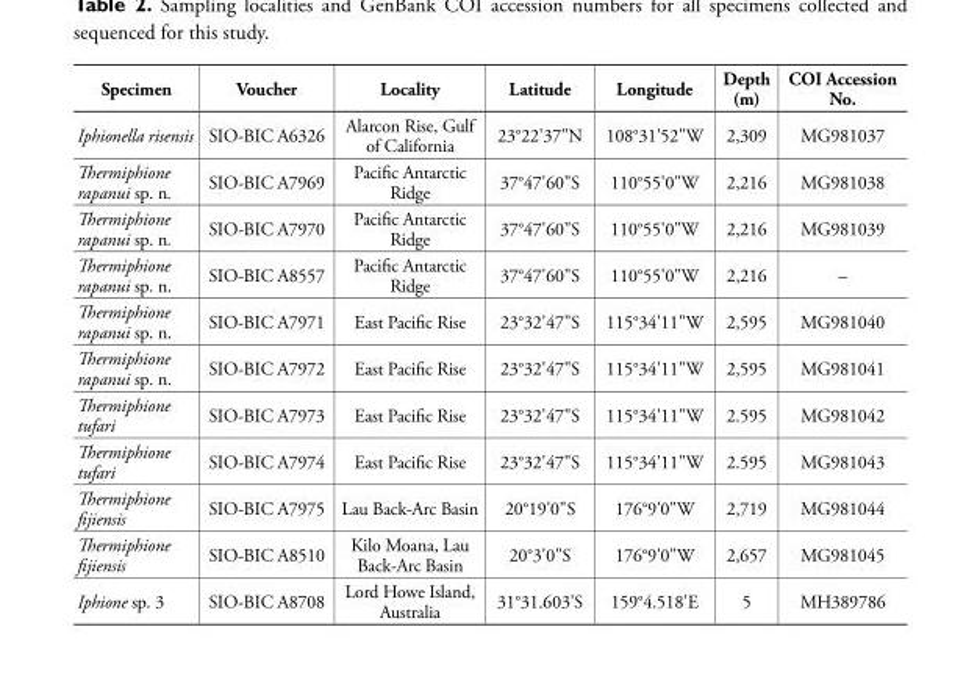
<table><thead><tr><td>Specimen</td><td>Voucher</td><td>Locality</td><td>Latitude Longitude</td><td>Depth (m)</td><td>COI Accession No.</td></tr></thead><tbody><tr><td>Iphionella risensis</td><td>SIO-BIC A6326</td><td>Alarcon Rise, Gulf of California</td><td>23°22&#x27;37&quot;N 108°31&#x27;52&quot;W</td><td>2,309</td><td>MG981037</td></tr><tr><td>Thermiphione rapanui sp. n.</td><td>SIO-BIC A7969</td><td>Pacific Antarctic Ridge</td><td>37°47&#x27;60&quot;S 110°55&#x27;0&quot;W</td><td>2,216</td><td>MG981038</td></tr><tr><td>Thermiphione rapanui sp. n.</td><td>SIO-BIC A7970</td><td>Pacific Antarctic Ridge</td><td>37°47&#x27;60&quot;S 110°55&#x27;0&quot;W</td><td>2,216</td><td>MG981039</td></tr><tr><td>Thermiphione rapanui sp. n.</td><td>SIO-BIC A8557</td><td>Pacific Antarctic Ridge</td><td>37°47&#x27;60&quot;S 110°55&#x27;0&quot;W</td><td>2,216</td><td>–</td></tr><tr><td>Thermiphione rapanui sp. n.</td><td>SIO-BIC A7971</td><td>East Pacific Rise</td><td>23°32&#x27;47&quot;S 115°34&#x27;11&quot;W</td><td>2,595</td><td>MG981040</td></tr><tr><td>Thermiphione rapanui sp. n.</td><td>SIO-BIC A7972</td><td>East Pacific Rise</td><td>23°32&#x27;47&quot;S 115°34&#x27;11&quot;W</td><td>2,595</td><td>MG981041</td></tr><tr><td>Thermiphione tufari</td><td>SIO-BIC A7973</td><td>East Pacific Rise</td><td>23°32&#x27;47&quot;S 115°34&#x27;11&quot;W</td><td>2.595</td><td>MG981042</td></tr><tr><td>Thermiphione tufari</td><td>SIO-BIC A7974</td><td>East Pacific Rise</td><td>23°32&#x27;47&quot;S 115°34&#x27;11&quot;W</td><td>2.595</td><td>MG981043</td></tr><tr><td>Thermiphione fijiensis</td><td>SIO-BIC A7975</td><td>Lau Back-Arc Basin</td><td>20°19&#x27;0&quot;S 176°9&#x27;0&quot;W</td><td>2,719</td><td>MG981044</td></tr><tr><td>Thermiphione fijiensis</td><td>SIO-BIC A8510</td><td>Kilo Moana, Lau Back-Arc Basin</td><td>20°3&#x27;0&quot;S 176°9&#x27;0&quot;W</td><td>2,657</td><td>MG981045</td></tr><tr><td>Iphione sp. 3</td><td>SIO-BIC A8708</td><td>Lord Howe Island, Australia</td><td>31°31.603&#x27;S 159°4.518&#x27;E</td><td>5</td><td>MH389786</td></tr></tbody></table>